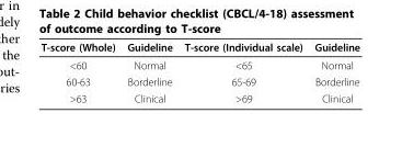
<table><thead><tr><td>T-score (Whole)</td><td>Guideline</td><td>T-score (Individual scale)</td><td>Guideline</td></tr></thead><tbody><tr><td>&lt;60</td><td>Normal</td><td>&lt;65</td><td>Normal</td></tr><tr><td>60-63</td><td>Borderline</td><td>65-69</td><td>Borderline</td></tr><tr><td>&gt;63</td><td>Clinical</td><td>&gt;69</td><td>Clinical</td></tr></tbody></table>